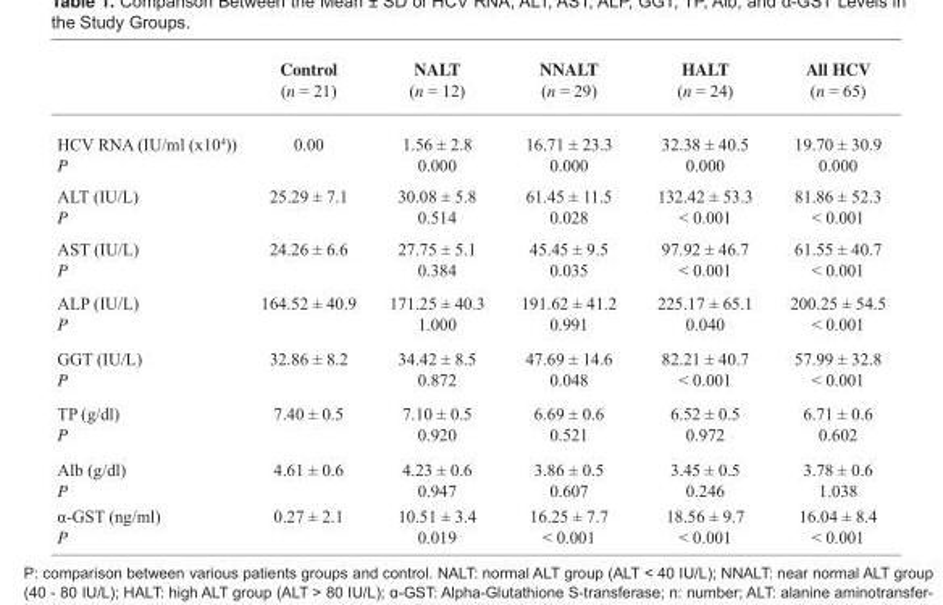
<table><thead><tr><td></td><td>Control (n = 21)</td><td>NALT (n = 12)</td><td>NNALT (n = 29)</td><td>HALT (n = 24)</td><td>All HCV (n = 65)</td></tr></thead><tbody><tr><td>HCV RNA (IU/ml (x10<sup>4</sup>)) P</td><td>0.00</td><td>1.56 ± 2.8 0.000</td><td>16.71 ± 23.3 0.000</td><td>32.38 ± 40.5 0.000</td><td>19.70 ± 30.9 0.000</td></tr><tr><td>ALT (IU/L) P</td><td>25.29 ± 7.1</td><td>30.08 ± 5.8 0.514</td><td>61.45 ± 11.5 0.028</td><td>132.42 ± 53.3 &lt; 0.001</td><td>81.86 ± 52.3 &lt; 0.001</td></tr><tr><td>AST (IU/L) P</td><td>24.26 ± 6.6</td><td>27.75 ± 5.1 0.384</td><td>45.45 ± 9.5 0.035</td><td>97.92 ± 46.7 &lt; 0.001</td><td>61.55 ± 40.7 &lt; 0.001</td></tr><tr><td>ALP (IU/L) P</td><td>164.52 ± 40.9</td><td>171.25 ± 40.3 1.000</td><td>191.62 ± 41.2 0.991</td><td>225.17 ± 65.1 0.040</td><td>200.25 ± 54.5 &lt; 0.001</td></tr><tr><td>GGT (IU/L) P</td><td>32.86 ± 8.2</td><td>34.42 ± 8.5 0.872</td><td>47.69 ± 14.6 0.048</td><td>82.21 ± 40.7 &lt; 0.001</td><td>57.99 ± 32.8 &lt; 0.001</td></tr><tr><td>TP (g/dl) P</td><td>7.40 ± 0.5</td><td>7.10 ± 0.5 0.920</td><td>6.69 ± 0.6 0.521</td><td>6.52 ± 0.5 0.972</td><td>6.71 ± 0.6 0.602</td></tr><tr><td>Alb (g/dl) P</td><td>4.61 ± 0.6</td><td>4.23 ± 0.6 0.947</td><td>3.86 ± 0.5 0.607</td><td>3.45 ± 0.5 0.246</td><td>3.78 ± 0.6 1.038</td></tr><tr><td>α-GST (ng/ml) P</td><td>0.27 ± 2.1</td><td>10.51 ± 3.4 0.019</td><td>16.25 ± 7.7 &lt; 0.001</td><td>18.56 ± 9.7 &lt; 0.001</td><td>16.04 ± 8.4 &lt; 0.001</td></tr></tbody></table>